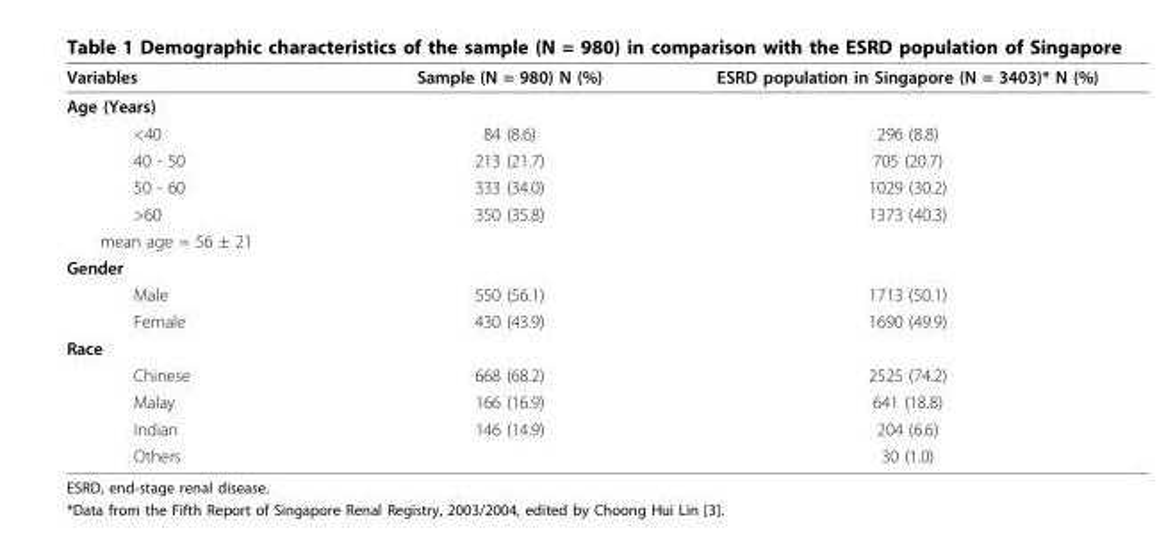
<table><thead><tr><td>Variables</td><td>Sample (N = 980) N (%)</td><td>ESRD population in Singapore (N = 3403)* N (%)</td></tr></thead><tbody><tr><td colspan="3">Age (Years)</td></tr><tr><td>&lt;40</td><td>84 (8.6)</td><td>296 (8.8)</td></tr><tr><td>40 - 50</td><td>213 (21.7)</td><td>705 (20.7)</td></tr><tr><td>50 - 60</td><td>333 (34.0)</td><td>1029 (30.2)</td></tr><tr><td>&gt;60</td><td>350 (35.8)</td><td>1373 (40.3)</td></tr><tr><td colspan="3">mean age = 56 ± 21</td></tr><tr><td colspan="3">Gender</td></tr><tr><td>Male</td><td>550 (56.1)</td><td>1713 (50.1)</td></tr><tr><td>Female</td><td>430 (43.9)</td><td>1690 (49.9)</td></tr><tr><td colspan="3">Race</td></tr><tr><td>Chinese</td><td>668 (68.2)</td><td>2525 (74.2)</td></tr><tr><td>Malay</td><td>166 (16.9)</td><td>641 (18.8)</td></tr><tr><td>Indian</td><td>146 (14.9)</td><td>204 (6.6)</td></tr><tr><td>Others</td><td></td><td>30 (1.0)</td></tr></tbody></table>